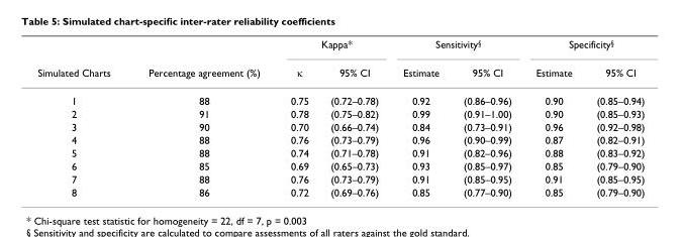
<table><thead><tr><td rowspan="2">Simulated Charts</td><td rowspan="2">Percentage agreement (%)</td><td colspan="2">Kappa*</td><td colspan="2">Sensitivity<sup>§</sup></td><td colspan="2">Specificity<sup>§</sup></td></tr><tr><td>κ</td><td>95% CI</td><td>Estimate</td><td>95% CI</td><td>Estimate</td><td>95% CI</td></tr></thead><tbody><tr><td>1</td><td>88</td><td>0.75</td><td>(0.72–0.78)</td><td>0.92</td><td>(0.86–0.96)</td><td>0.90</td><td>(0.85–0.94)</td></tr><tr><td>2</td><td>91</td><td>0.78</td><td>(0.75–0.82)</td><td>0.99</td><td>(0.91–1.00)</td><td>0.90</td><td>(0.85–0.93)</td></tr><tr><td>3</td><td>90</td><td>0.70</td><td>(0.66–0.74)</td><td>0.84</td><td>(0.73–0.91)</td><td>0.96</td><td>(0.92–0.98)</td></tr><tr><td>4</td><td>88</td><td>0.76</td><td>(0.73–0.79)</td><td>0.96</td><td>(0.90–0.99)</td><td>0.87</td><td>(0.82–0.91)</td></tr><tr><td>5</td><td>88</td><td>0.74</td><td>(0.71–0.78)</td><td>0.91</td><td>(0.82–0.96)</td><td>0.88</td><td>(0.83–0.92)</td></tr><tr><td>6</td><td>85</td><td>0.69</td><td>(0.65–0.73)</td><td>0.93</td><td>(0.85–0.97)</td><td>0.85</td><td>(0.79–0.90)</td></tr><tr><td>7</td><td>88</td><td>0.76</td><td>(0.73–0.79)</td><td>0.91</td><td>(0.85–0.95)</td><td>0.91</td><td>(0.85–0.95)</td></tr><tr><td>8</td><td>86</td><td>0.72</td><td>(0.69–0.76)</td><td>0.85</td><td>(0.77–0.90)</td><td>0.85</td><td>(0.79–0.90)</td></tr></tbody></table>